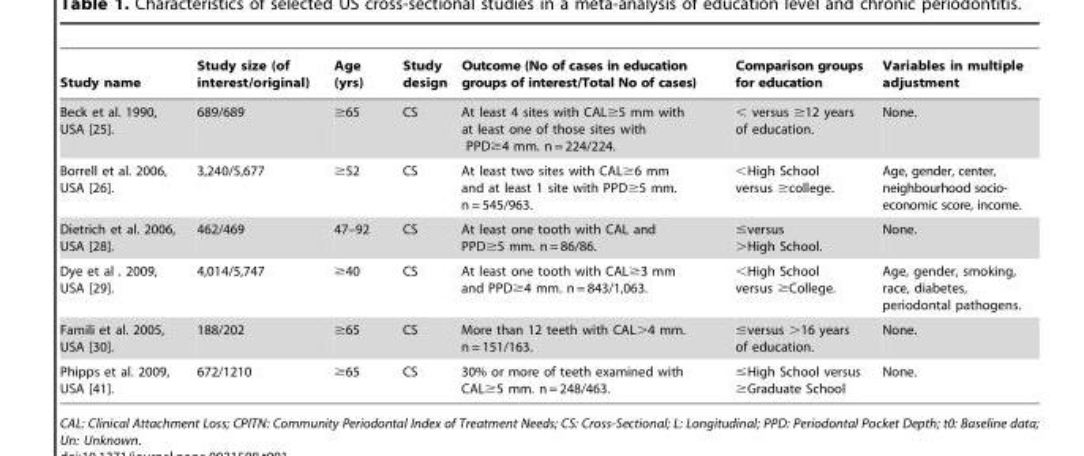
<table><thead><tr><td>Study name</td><td>Study size (of interest/original)</td><td>Age (yrs)</td><td>Study design</td><td>Outcome (No of cases in education groups of interest/Total No of cases)</td><td>Comparison groups for education</td><td>Variables in multiple adjustment</td></tr></thead><tbody><tr><td>Beck et al. 1990, USA [25].</td><td>689/689</td><td>≥65</td><td>CS</td><td>At least 4 sites with CAL≥5 mm with at least one of those sites with PPD≥4 mm. n = 224/224.</td><td>&lt; versus ≥12 years of education.</td><td>None.</td></tr><tr><td>Borrell et al. 2006, USA [26].</td><td>3,240/5,677</td><td>≥52</td><td>CS</td><td>At least two sites with CAL≥6 mm and at least 1 site with PPD≥5 mm. n = 545/963.</td><td>&lt;High School versus ≥college.</td><td>Age, gender, center, neighbourhood socio- economic score, income.</td></tr><tr><td>Dietrich et al. 2006, USA [28].</td><td>462/469</td><td>47–92</td><td>CS</td><td>At least one tooth with CAL and PPD≥5 mm. n = 86/86.</td><td>≤versus &gt;High School.</td><td>None.</td></tr><tr><td>Dye et al . 2009, USA [29].</td><td>4,014/5,747</td><td>≥40</td><td>CS</td><td>At least one tooth with CAL≥3 mm and PPD≥4 mm. n = 843/1,063.</td><td>&lt;High School versus ≥College.</td><td>Age, gender, smoking, race, diabetes, periodontal pathogens.</td></tr><tr><td>Famili et al. 2005, USA [30].</td><td>188/202</td><td>≥65</td><td>CS</td><td>More than 12 teeth with CAL&gt;4 mm. n = 151/163.</td><td>≤versus &gt;16 years of education.</td><td>None.</td></tr><tr><td>Phipps et al. 2009, USA [41].</td><td>672/1210</td><td>≥65</td><td>CS</td><td>30% or more of teeth examined with CAL≥5 mm. n = 248/463.</td><td>≤High School versus ≥Graduate School</td><td>None.</td></tr></tbody></table>